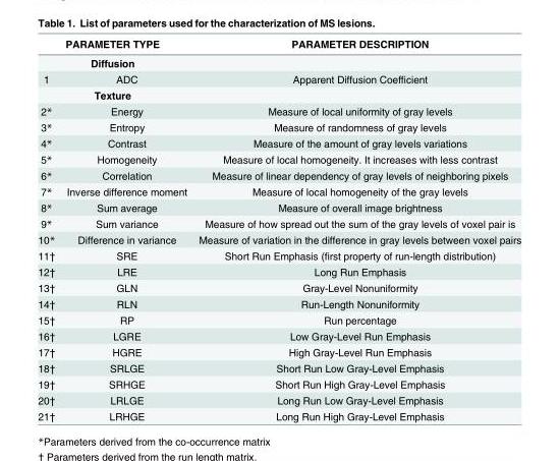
<table><thead><tr><td rowspan="2" colspan="2">PARAMETER TYPE Diffusion</td><td rowspan="3">PARAMETER DESCRIPTION Apparent Diffusion Coefficient</td></tr><tr></tr><tr><td>1</td><td>ADC</td></tr></thead><tbody><tr><td colspan="3">Texture</td></tr><tr><td>2*</td><td>Energy</td><td>Measure of local uniformity of gray levels</td></tr><tr><td>3*</td><td>Entropy</td><td>Measure of randomness of gray levels</td></tr><tr><td>4*</td><td>Contrast</td><td>Measure of the amount of gray levels variations</td></tr><tr><td>5*</td><td>Homogeneity</td><td>Measure of local homogeneity. It increases with less contrast</td></tr><tr><td>6*</td><td>Correlation</td><td>Measure of linear dependency of gray levels of neighboring pixels</td></tr><tr><td>7*</td><td>Inverse difference moment</td><td>Measure of local homogeneity of the gray levels</td></tr><tr><td>8*</td><td>Sum average</td><td>Measure of overall image brightness</td></tr><tr><td>9*</td><td>Sum variance</td><td>Measure of how spread out the sum of the gray levels of voxel pair is</td></tr><tr><td>10*</td><td>Difference in variance</td><td>Measure of variation in the difference in gray levels between voxel pairs</td></tr><tr><td>11†</td><td>SRE</td><td>Short Run Emphasis (first property of run-length distribution)</td></tr><tr><td>12†</td><td>LRE</td><td>Long Run Emphasis</td></tr><tr><td>13†</td><td>GLN</td><td>Gray-Level Nonuniformity</td></tr><tr><td>14†</td><td>RLN</td><td>Run-Length Nonuniformity</td></tr><tr><td>15†</td><td>RP</td><td>Run percentage</td></tr><tr><td>16†</td><td>LGRE</td><td>Low Gray-Level Run Emphasis</td></tr><tr><td>17†</td><td>HGRE</td><td>High Gray-Level Run Emphasis</td></tr><tr><td>18†</td><td>SRLGE</td><td>Short Run Low Gray-Level Emphasis</td></tr><tr><td>19†</td><td>SRHGE</td><td>Short Run High Gray-Level Emphasis</td></tr><tr><td>20†</td><td>LRLGE</td><td>Long Run Low Gray-Level Emphasis</td></tr><tr><td>21†</td><td>LRHGE</td><td>Long Run High Gray-Level Emphasis</td></tr></tbody></table>